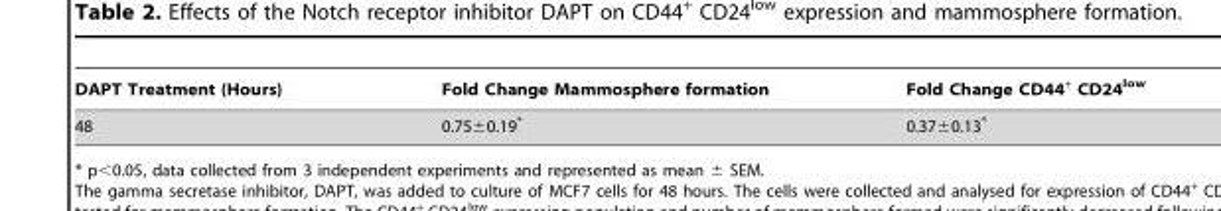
<table><thead><tr><td>DAPT Treatment (Hours)</td><td>Fold Change Mammosphere formation</td><td>Fold Change CD44<sup>+</sup> CD24<sup>low</sup></td></tr></thead><tbody><tr><td>48</td><td>0.75±0.19*</td><td>0.37±0.13*</td></tr></tbody></table>